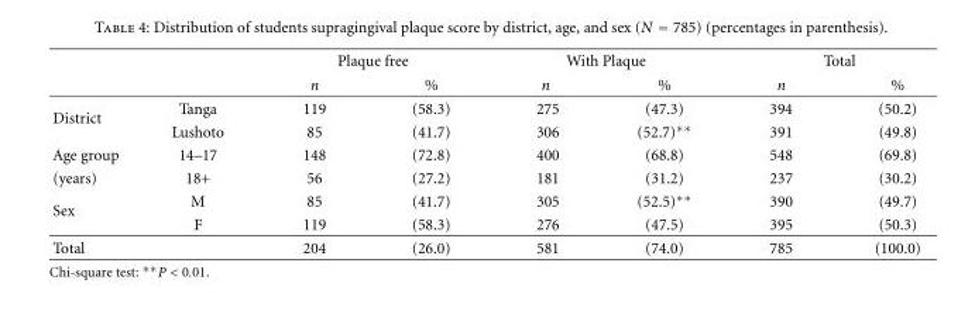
<table><thead><tr><td rowspan="2"></td><td rowspan="2"></td><td colspan="2">Plaque free</td><td colspan="2">With Plaque</td><td colspan="2">Total</td></tr><tr><td>n</td><td>%</td><td>n</td><td>%</td><td>n</td><td>%</td></tr></thead><tbody><tr><td rowspan="2">District</td><td>Tanga</td><td>119</td><td>(58.3)</td><td>275</td><td>(47.3)</td><td>394</td><td>(50.2)</td></tr><tr><td>Lushoto</td><td>85</td><td>(41.7)</td><td>306</td><td>(52.7)∗∗</td><td>391</td><td>(49.8)</td></tr><tr><td>Age group</td><td>14–17</td><td>148</td><td>(72.8)</td><td>400</td><td>(68.8)</td><td>548</td><td>(69.8)</td></tr><tr><td>(years)</td><td>18+</td><td>56</td><td>(27.2)</td><td>181</td><td>(31.2)</td><td>237</td><td>(30.2)</td></tr><tr><td rowspan="2">Sex</td><td>M</td><td>85</td><td>(41.7)</td><td>305</td><td>(52.5)∗∗</td><td>390</td><td>(49.7)</td></tr><tr><td>F</td><td>119</td><td>(58.3)</td><td>276</td><td>(47.5)</td><td>395</td><td>(50.3)</td></tr><tr><td>Total</td><td></td><td>204</td><td>(26.0)</td><td>581</td><td>(74.0)</td><td>785</td><td>(100.0)</td></tr></tbody></table>